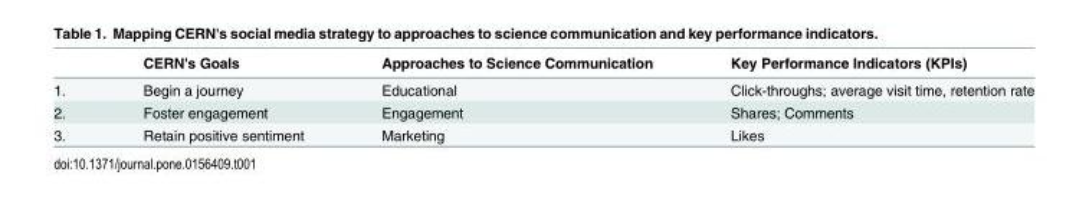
<table><thead><tr><td></td><td>CERN&#x27;s Goals</td><td>Approaches to Science Communication</td><td>Key Performance Indicators (KPIs)</td></tr></thead><tbody><tr><td>1.</td><td>Begin a journey</td><td>Educational</td><td>Click-throughs; average visit time, retention rate</td></tr><tr><td>2.</td><td>Foster engagement</td><td>Engagement</td><td>Shares; Comments</td></tr><tr><td>3.</td><td>Retain positive sentiment</td><td>Marketing</td><td>Likes</td></tr></tbody></table>